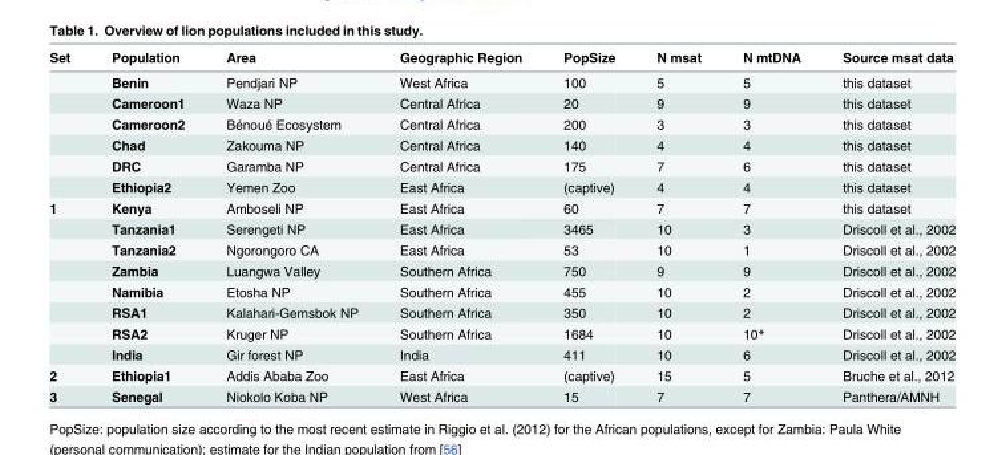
<table><thead><tr><td>Set</td><td>Population</td><td>Area</td><td>Geographic Region</td><td>PopSize</td><td>N msat</td><td>N mtDNA</td><td>Source msat data</td></tr></thead><tbody><tr><td></td><td>Benin</td><td>Pendjari NP</td><td>West Africa</td><td>100</td><td>5</td><td>5</td><td>this dataset</td></tr><tr><td></td><td>Cameroon1</td><td>Waza NP</td><td>Central Africa</td><td>20</td><td>9</td><td>9</td><td>this dataset</td></tr><tr><td></td><td>Cameroon2</td><td>Bénoué Ecosystem</td><td>Central Africa</td><td>200</td><td>3</td><td>3</td><td>this dataset</td></tr><tr><td></td><td>Chad</td><td>Zakouma NP</td><td>Central Africa</td><td>140</td><td>4</td><td>4</td><td>this dataset</td></tr><tr><td></td><td>DRC</td><td>Garamba NP</td><td>Central Africa</td><td>175</td><td>7</td><td>6</td><td>this dataset</td></tr><tr><td></td><td>Ethiopia2</td><td>Yemen Zoo</td><td>East Africa</td><td>(captive)</td><td>4</td><td>4</td><td>this dataset</td></tr><tr><td rowspan="8">1</td><td>Kenya</td><td>Amboseli NP</td><td>East Africa</td><td>60</td><td>7</td><td>7</td><td>this dataset</td></tr><tr><td>Tanzania1</td><td>Serengeti NP</td><td>East Africa</td><td>3465</td><td>10</td><td>3</td><td>Driscoll et al., 2002</td></tr><tr><td>Tanzania2</td><td>Ngorongoro CA</td><td>East Africa</td><td>53</td><td>10</td><td>1</td><td>Driscoll et al., 2002</td></tr><tr><td>Zambia</td><td>Luangwa Valley</td><td>Southern Africa</td><td>750</td><td>9</td><td>9</td><td>Driscoll et al., 2002</td></tr><tr><td>Namibia</td><td>Etosha NP</td><td>Southern Africa</td><td>455</td><td>10</td><td>2</td><td>Driscoll et al., 2002</td></tr><tr><td>RSA1</td><td>Kalahari-Gemsbok NP</td><td>Southern Africa</td><td>350</td><td>10</td><td>2</td><td>Driscoll et al., 2002</td></tr><tr><td>RSA2</td><td>Kruger NP</td><td>Southern Africa</td><td>1684</td><td>10</td><td>10*</td><td>Driscoll et al., 2002</td></tr><tr><td>India</td><td>Gir forest NP</td><td>India</td><td>411</td><td>10</td><td>6</td><td>Driscoll et al., 2002</td></tr><tr><td>2</td><td>Ethiopia1</td><td>Addis Ababa Zoo</td><td>East Africa</td><td>(captive)</td><td>15</td><td>5</td><td>Bruche et al., 2012</td></tr><tr><td>3</td><td>Senegal</td><td>Niokolo Koba NP</td><td>West Africa</td><td>15</td><td>7</td><td>7</td><td>Panthera/AMNH</td></tr></tbody></table>